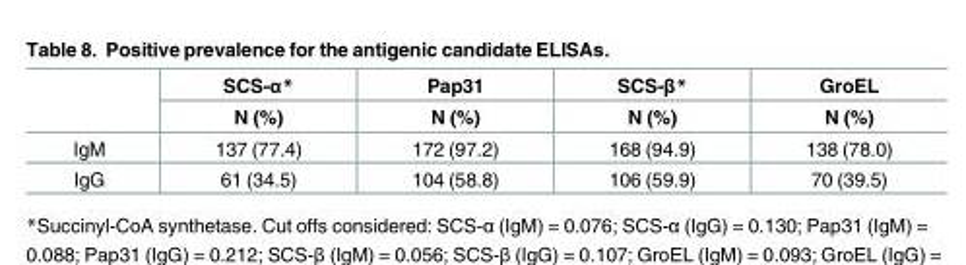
<table><thead><tr><td rowspan="2"></td><td rowspan="2">SCS-α* N (%)</td><td rowspan="2">Pap31 N (%)</td><td rowspan="2">SCS-β* N (%)</td><td rowspan="2">GroEL N (%)</td></tr><tr></tr></thead><tbody><tr><td>IgM</td><td>137 (77.4)</td><td>172 (97.2)</td><td>168 (94.9)</td><td>138 (78.0)</td></tr><tr><td>IgG</td><td>61 (34.5)</td><td>104 (58.8)</td><td>106 (59.9)</td><td>70 (39.5)</td></tr></tbody></table>